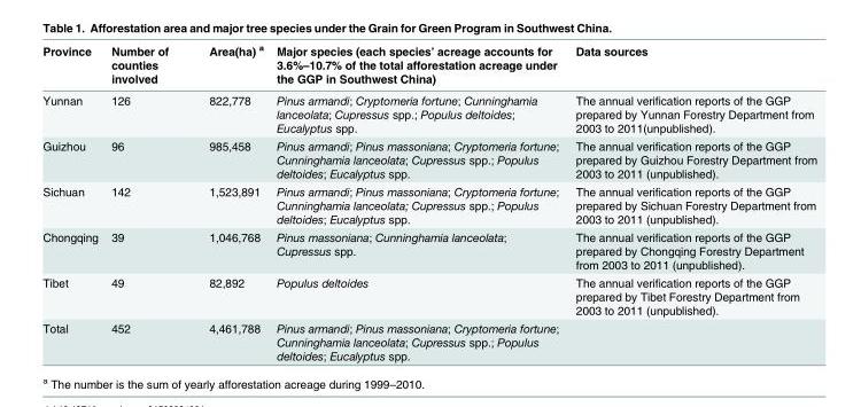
<table><thead><tr><td>Province</td><td>Number of counties involved</td><td>Area(ha) <sup>a</sup></td><td>Major species (each species’ acreage accounts for 3.6%–10.7% of the total afforestation acreage under the GGP in Southwest China)</td><td>Data sources</td></tr></thead><tbody><tr><td>Yunnan</td><td>126</td><td>822,778</td><td>Pinus armandi; Cryptomeria fortune; Cunninghamia lanceolata; Cupressus spp.; Populus deltoides; Eucalyptus spp.</td><td>The annual verification reports of the GGP prepared by Yunnan Forestry Department from 2003 to 2011(unpublished).</td></tr><tr><td>Guizhou</td><td>96</td><td>985,458</td><td>Pinus armandi; Pinus massoniana; Cryptomeria fortune; Cunninghamia lanceolata; Cupressus spp.; Populus deltoides; Eucalyptus spp.</td><td>The annual verification reports of the GGP prepared by Guizhou Forestry Department from 2003 to 2011 (unpublished).</td></tr><tr><td>Sichuan</td><td>142</td><td>1,523,891</td><td>Pinus armandi; Pinus massoniana; Cryptomeria fortune; Cunninghamia lanceolata; Cupressus spp.; Populus deltoides; Eucalyptus spp.</td><td>The annual verification reports of the GGP prepared by Sichuan Forestry Department from 2003 to 2011 (unpublished).</td></tr><tr><td>Chongqing</td><td>39</td><td>1,046,768</td><td>Pinus massoniana; Cunninghamia lanceolata; Cupressus spp.</td><td>The annual verification reports of the GGP prepared by Chongqing Forestry Department from 2003 to 2011 (unpublished).</td></tr><tr><td>Tibet</td><td>49</td><td>82,892</td><td>Populus deltoides</td><td>The annual verification reports of the GGP prepared by Tibet Forestry Department from 2003 to 2011 (unpublished).</td></tr><tr><td>Total</td><td>452</td><td>4,461,788</td><td>Pinus armandi; Pinus massoniana; Cryptomeria fortune; Cunninghamia lanceolata; Cupressus spp.; Populus deltoides; Eucalyptus spp.</td><td></td></tr></tbody></table>